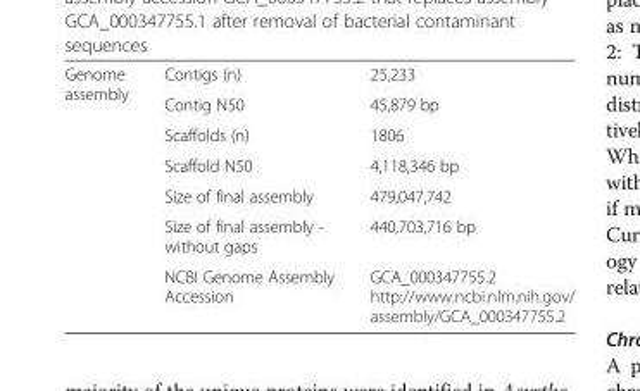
<table><tbody><tr><td rowspan="7">Genome assembly</td><td>Contigs (n)</td><td>25,233</td></tr><tr><td>Contig N50</td><td>45,879 bp</td></tr><tr><td>Scaffolds (n)</td><td>1806</td></tr><tr><td>Scaffold N50</td><td>4,118,346 bp</td></tr><tr><td>Size of final assembly</td><td>479,047,742</td></tr><tr><td>Size of final assembly - without gaps</td><td>440,703,716 bp</td></tr><tr><td>NCBI Genome Assembly Accession</td><td>GCA_000347755.2 http://www.ncbi.nlm.nih.gov/ assembly/GCA_000347755.2</td></tr></tbody></table>